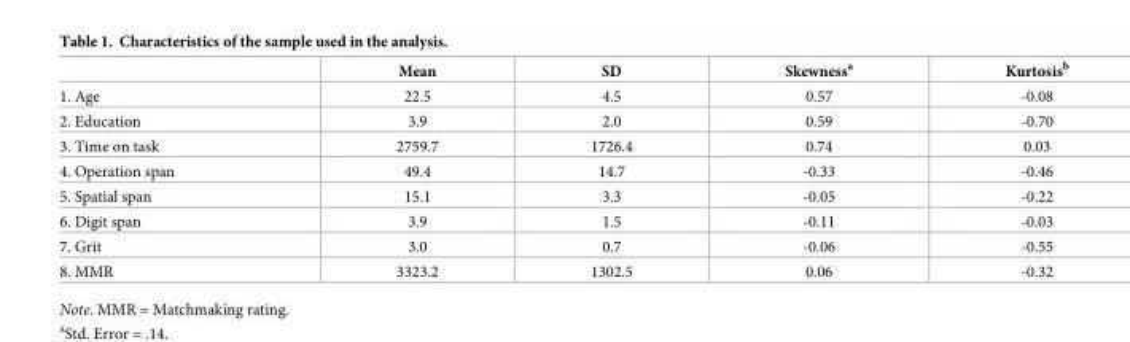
<table><thead><tr><td></td><td>Mean</td><td>SD</td><td>Skewness<sup>a</sup></td><td>Kurtosis<sup>b</sup></td></tr></thead><tbody><tr><td>1. Age</td><td>22.5</td><td>4.5</td><td>0.57</td><td>-0.08</td></tr><tr><td>2. Education</td><td>3.9</td><td>2.0</td><td>0.59</td><td>-0.70</td></tr><tr><td>3. Time on task</td><td>2759.7</td><td>1726.4</td><td>0.74</td><td>0.03</td></tr><tr><td>4. Operation span</td><td>49.4</td><td>14.7</td><td>-0.33</td><td>-0.46</td></tr><tr><td>5. Spatial span</td><td>15.1</td><td>3.3</td><td>-0.05</td><td>-0.22</td></tr><tr><td>6. Digit span</td><td>3.9</td><td>1.5</td><td>-0.11</td><td>-0.03</td></tr><tr><td>7. Grit</td><td>3.0</td><td>0.7</td><td>-0.06</td><td>-0.55</td></tr><tr><td>8. MMR</td><td>3323.2</td><td>1302.5</td><td>0.06</td><td>-0.32</td></tr></tbody></table>